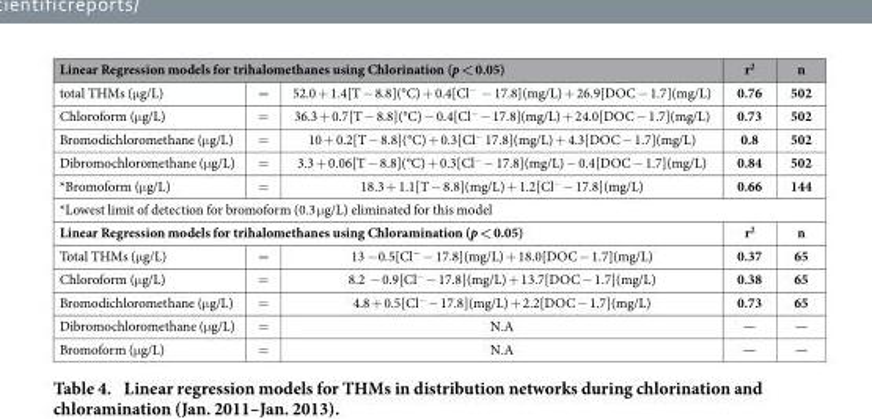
<table><thead><tr><td colspan="3">Linear Regression models for trihalomethanes using Chlorination (p &lt; 0.05)</td><td rowspan="2">r2 0.76</td><td rowspan="2">n 502</td></tr><tr><td>total THMs (μg/L)</td><td>=</td><td>52.0 + 1.4[T − 8.8](°C) + 0.4[Cl<sup>−</sup> − 17.8](mg/L) + 26.9[DOC − 1.7](mg/L)</td></tr></thead><tbody><tr><td>Chloroform (μg/L)</td><td>=</td><td>36.3 + 0.7[T − 8.8](°C) − 0.4[Cl<sup>−</sup> − 17.8](mg/L) + 24.0[DOC − 1.7](mg/L)</td><td>0.73</td><td>502</td></tr><tr><td>Bromodichloromethane (μg/L)</td><td>=</td><td>10 + 0.2[T − 8.8](°C) + 0.3[Cl<sup>−</sup> 17.8](mg/L) + 4.3[DOC − 1.7](mg/L)</td><td>0.8</td><td>502</td></tr><tr><td>Dibromochloromethane (μg/L)</td><td>=</td><td>3.3 + 0.06[T − 8.8](°C) + 0.3[Cl<sup>−</sup> − 17.8](mg/L) − 0.4[DOC − 1.7](mg/L)</td><td>0.84</td><td>502</td></tr><tr><td>*Bromoform (μg/L)</td><td>=</td><td>18.3 + 1.1[T − 8.8](mg/L) + 1.2[Cl<sup>−</sup> − 17.8](mg/L)</td><td>0.66</td><td>144</td></tr><tr><td colspan="5">*Lowest limit of detection for bromoform (0.3 μg/L) eliminated for this model</td></tr><tr><td colspan="3">Linear Regression models for trihalomethanes using Chloramination (p &lt; 0.05)</td><td>r2</td><td>n</td></tr><tr><td>Total THMs (μg/L)</td><td>=</td><td>13 −0.5[Cl<sup>−</sup> − 17.8](mg/L) + 18.0[DOC − 1.7](mg/L)</td><td>0.37</td><td>65</td></tr><tr><td>Chloroform (μg/L)</td><td>=</td><td>8.2 − 0.9[Cl<sup>−</sup> − 17.8](mg/L) + 13.7[DOC − 1.7](mg/L)</td><td>0.38</td><td>65</td></tr><tr><td>Bromodichloromethane (μg/L)</td><td>=</td><td>4.8 + 0.5[Cl<sup>−</sup> − 17.8](mg/L) + 2.2[DOC − 1.7](mg/L)</td><td>0.73</td><td>65</td></tr><tr><td>Dibromochloromethane (μg/L)</td><td>=</td><td>N.A</td><td>—</td><td>—</td></tr><tr><td>Bromoform (μg/L)</td><td>=</td><td>N.A</td><td>—</td><td>—</td></tr></tbody></table>